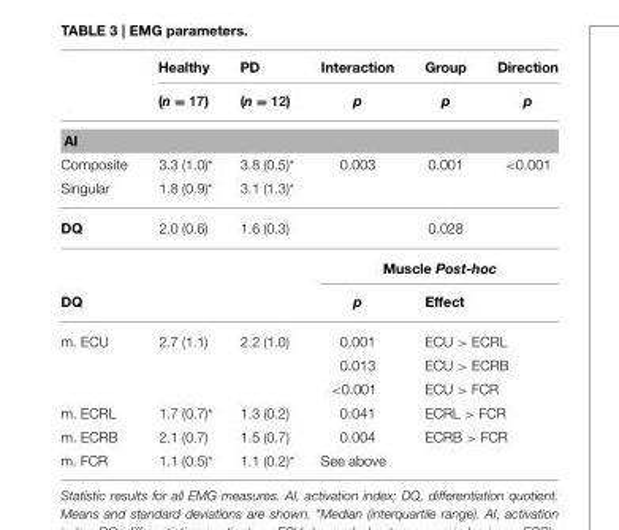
<table><thead><tr><td rowspan="2"></td><td rowspan="2">Healthy (n = 17)</td><td rowspan="2">PD (n = 12)</td><td rowspan="2">Interaction p</td><td rowspan="2">Group p</td><td rowspan="2">Direction p</td></tr><tr></tr></thead><tbody><tr><td colspan="6">AI</td></tr><tr><td>Composite</td><td>3.3 (1.0)*</td><td>3.8 (0.5)*</td><td>0.003</td><td>0.001</td><td>&lt;0.001</td></tr><tr><td>Singular</td><td>1.8 (0.9)*</td><td>3.1 (1.3)*</td><td></td><td></td><td></td></tr><tr><td rowspan="2">DQ</td><td>2.0 (0.6)</td><td>1.6 (0.3)</td><td></td><td>0.028</td><td></td></tr><tr><td></td><td></td><td colspan="3">Muscle Post-hoc</td></tr><tr><td>DQ</td><td></td><td></td><td>p</td><td colspan="2">Effect</td></tr><tr><td rowspan="3">m. ECU</td><td>2.7 (1.1)</td><td>2.2 (1.0)</td><td>0.001</td><td colspan="2">ECU &gt; ECRL</td></tr><tr><td></td><td></td><td>0.013</td><td colspan="2">ECU &gt; ECRB</td></tr><tr><td></td><td></td><td>&lt;0.001</td><td colspan="2">ECU &gt; FCR</td></tr><tr><td>m. ECRL</td><td>1.7 (0.7)*</td><td>1.3 (0.2)</td><td>0.041</td><td colspan="2">ECRL &gt; FCR</td></tr><tr><td>m. ECRB</td><td>2.1 (0.7)</td><td>1.5 (0.7)</td><td>0.004</td><td colspan="2">ECRB &gt; FCR</td></tr><tr><td>m. FCR</td><td>1.1 (0.5)*</td><td>1.1 (0.2)*</td><td>See above</td><td></td><td></td></tr></tbody></table>